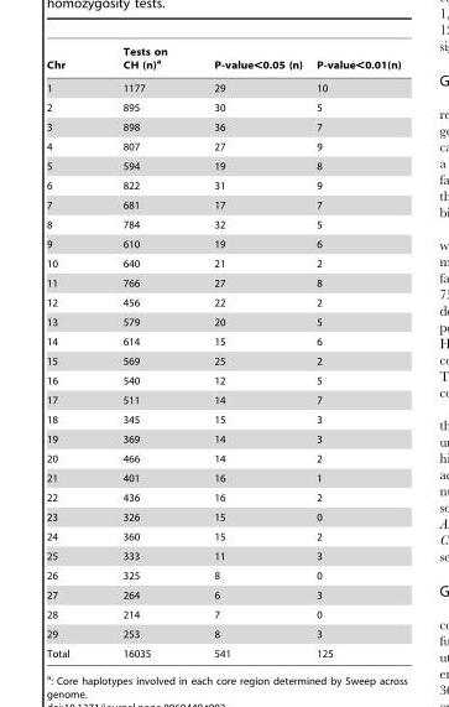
<table><thead><tr><td>Chr</td><td>Tests on CH (n)<sup>a</sup></td><td>P-value&lt;0.05 (n)</td><td>P-value&lt;0.01(n)</td></tr></thead><tbody><tr><td>1</td><td>1177</td><td>29</td><td>10</td></tr><tr><td>2</td><td>895</td><td>30</td><td>5</td></tr><tr><td>3</td><td>898</td><td>36</td><td>7</td></tr><tr><td>4</td><td>807</td><td>27</td><td>9</td></tr><tr><td>5</td><td>594</td><td>19</td><td>8</td></tr><tr><td>6</td><td>822</td><td>31</td><td>9</td></tr><tr><td>7</td><td>681</td><td>17</td><td>7</td></tr><tr><td>8</td><td>784</td><td>32</td><td>5</td></tr><tr><td>9</td><td>610</td><td>19</td><td>6</td></tr><tr><td>10</td><td>640</td><td>21</td><td>2</td></tr><tr><td>11</td><td>766</td><td>27</td><td>8</td></tr><tr><td>12</td><td>456</td><td>22</td><td>2</td></tr><tr><td>13</td><td>579</td><td>20</td><td>5</td></tr><tr><td>14</td><td>614</td><td>15</td><td>6</td></tr><tr><td>15</td><td>569</td><td>25</td><td>2</td></tr><tr><td>16</td><td>540</td><td>12</td><td>5</td></tr><tr><td>17</td><td>511</td><td>14</td><td>7</td></tr><tr><td>18</td><td>345</td><td>15</td><td>3</td></tr><tr><td>19</td><td>369</td><td>14</td><td>3</td></tr><tr><td>20</td><td>466</td><td>14</td><td>2</td></tr><tr><td>21</td><td>401</td><td>16</td><td>1</td></tr><tr><td>22</td><td>436</td><td>16</td><td>2</td></tr><tr><td>23</td><td>326</td><td>15</td><td>0</td></tr><tr><td>24</td><td>360</td><td>15</td><td>2</td></tr><tr><td>25</td><td>333</td><td>11</td><td>3</td></tr><tr><td>26</td><td>325</td><td>8</td><td>0</td></tr><tr><td>27</td><td>264</td><td>6</td><td>3</td></tr><tr><td>28</td><td>214</td><td>7</td><td>0</td></tr><tr><td>29</td><td>253</td><td>8</td><td>3</td></tr><tr><td>Total</td><td>16035</td><td>541</td><td>125</td></tr></tbody></table>